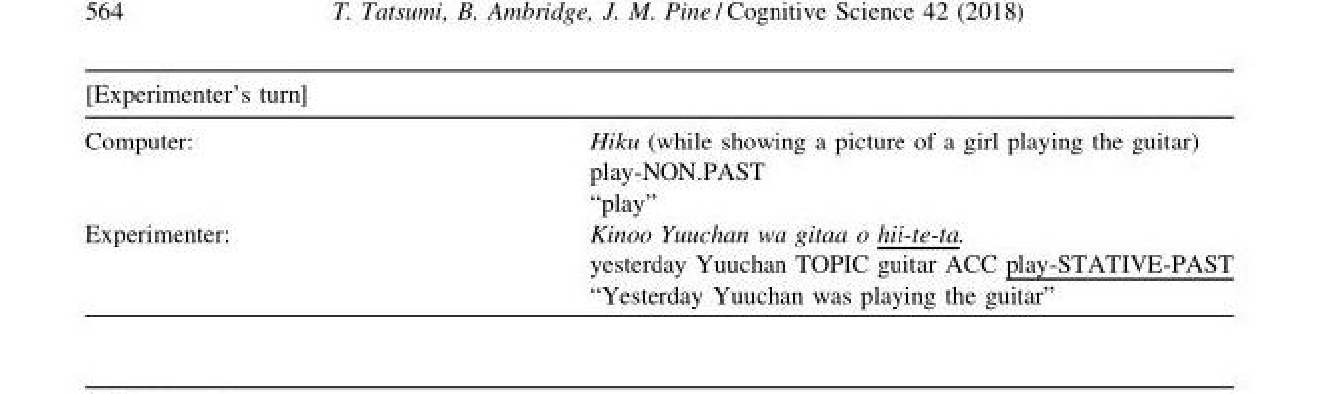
<table><thead><tr><td colspan="2">[Experimenter’s turn]</td></tr><tr><td>Computer:</td><td>Hiku (while showing a picture of a girl playing the guitar)</td></tr></thead><tbody><tr><td></td><td>play-NON.PAST</td></tr><tr><td></td><td>“play”</td></tr><tr><td rowspan="3">Experimenter:</td><td>Kinoo Yuuchan wa gitaa o hii-te-ta.</td></tr><tr><td>yesterday Yuuchan TOPIC guitar ACC play-STATIVE-PAST</td></tr><tr><td>“Yesterday Yuuchan was playing the guitar”</td></tr></tbody></table>